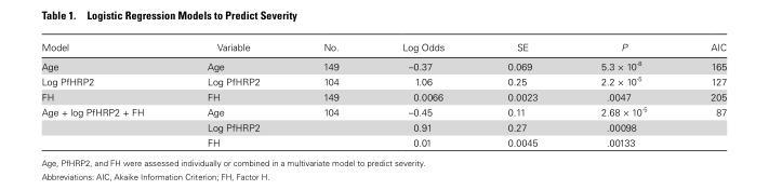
<table><thead><tr><td>Model</td><td>Variable</td><td>No.</td><td>Log Odds</td><td>SE</td><td>P</td><td>AIC</td></tr></thead><tbody><tr><td>Age</td><td>Age</td><td>149</td><td>–0.37</td><td>0.069</td><td>5.3 × 10<sup>-8</sup></td><td>165</td></tr><tr><td>Log PfHRP2</td><td>Log PfHRP2</td><td>104</td><td>1.06</td><td>0.25</td><td>2.2 × 10<sup>-5</sup></td><td>127</td></tr><tr><td>FH</td><td>FH</td><td>149</td><td>0.0066</td><td>0.0023</td><td>.0047</td><td>205</td></tr><tr><td rowspan="3">Age + log PfHRP2 + FH</td><td>Age</td><td>104</td><td>–0.45</td><td>0.11</td><td>2.68 × 10<sup>-5</sup></td><td>87</td></tr><tr><td>Log PfHRP2</td><td></td><td>0.91</td><td>0.27</td><td>.00098</td><td></td></tr><tr><td>FH</td><td></td><td>0.01</td><td>0.0045</td><td>.00133</td><td></td></tr></tbody></table>